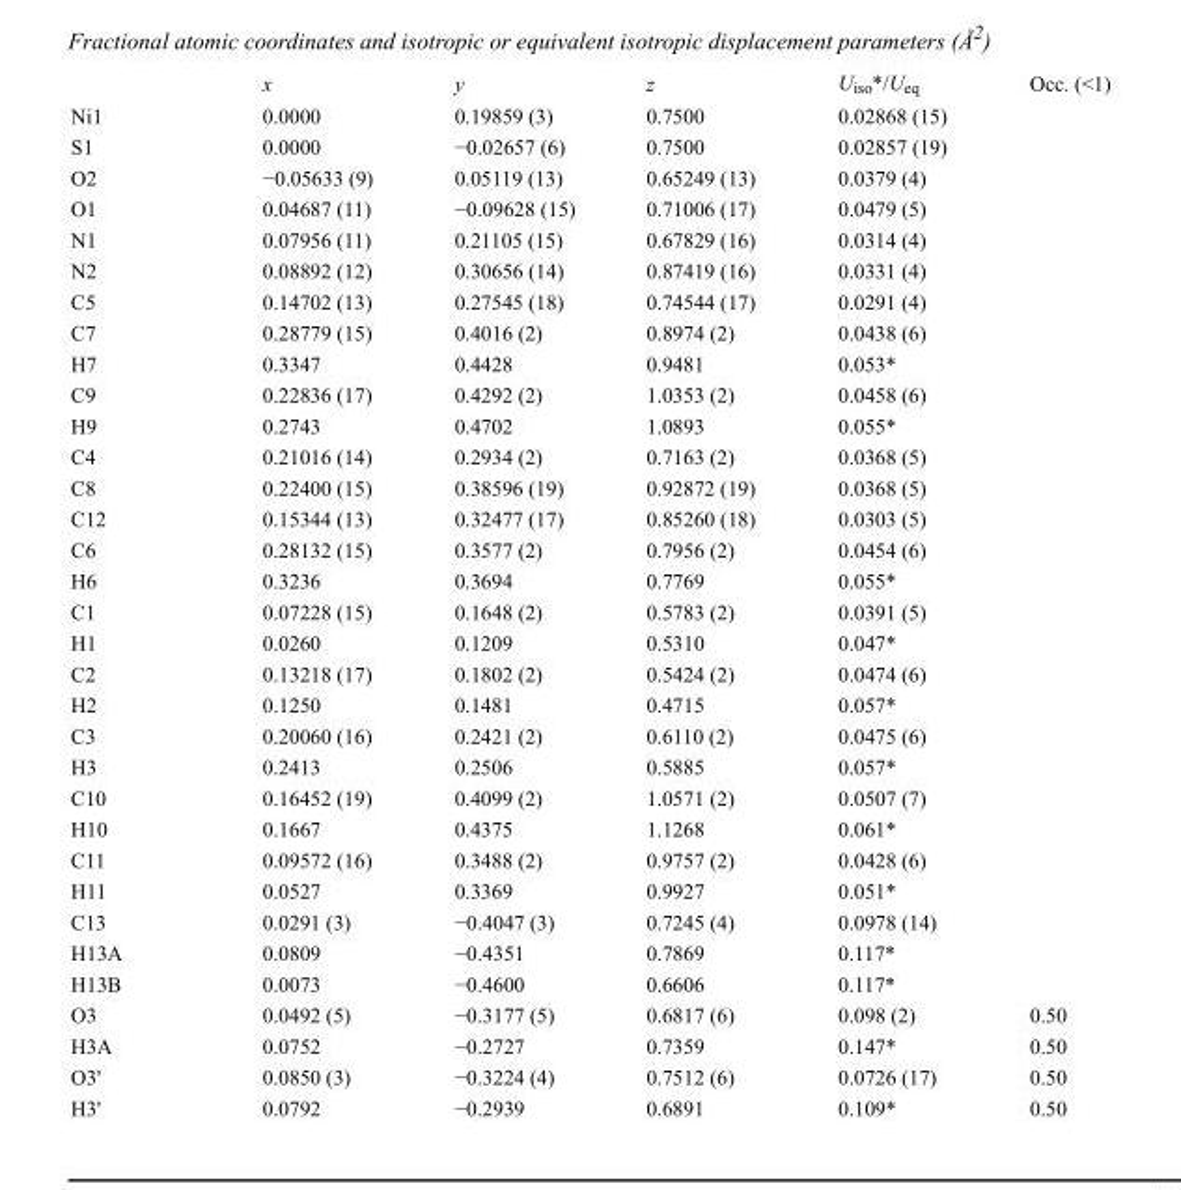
<table><thead><tr><td></td><td>x</td><td>y</td><td>z</td><td>U<sub>iso</sub>*/U<sub>eq</sub></td><td>Occ. (&lt;1)</td></tr></thead><tbody><tr><td>Ni1</td><td>0.0000</td><td>0.19859 (3)</td><td>0.7500</td><td>0.02868 (15)</td><td></td></tr><tr><td>S1</td><td>0.0000</td><td>−0.02657 (6)</td><td>0.7500</td><td>0.02857 (19)</td><td></td></tr><tr><td>O2</td><td>−0.05633 (9)</td><td>0.05119 (13)</td><td>0.65249 (13)</td><td>0.0379 (4)</td><td></td></tr><tr><td>O1</td><td>0.04687 (11)</td><td>−0.09628 (15)</td><td>0.71006 (17)</td><td>0.0479 (5)</td><td></td></tr><tr><td>N1</td><td>0.07956 (11)</td><td>0.21105 (15)</td><td>0.67829 (16)</td><td>0.0314 (4)</td><td></td></tr><tr><td>N2</td><td>0.08892 (12)</td><td>0.30656 (14)</td><td>0.87419 (16)</td><td>0.0331 (4)</td><td></td></tr><tr><td>C5</td><td>0.14702 (13)</td><td>0.27545 (18)</td><td>0.74544 (17)</td><td>0.0291 (4)</td><td></td></tr><tr><td>C7</td><td>0.28779 (15)</td><td>0.4016 (2)</td><td>0.8974 (2)</td><td>0.0438 (6)</td><td></td></tr><tr><td>H7</td><td>0.3347</td><td>0.4428</td><td>0.9481</td><td>0.053*</td><td></td></tr><tr><td>C9</td><td>0.22836 (17)</td><td>0.4292 (2)</td><td>1.0353 (2)</td><td>0.0458 (6)</td><td></td></tr><tr><td>H9</td><td>0.2743</td><td>0.4702</td><td>1.0893</td><td>0.055*</td><td></td></tr><tr><td>C4</td><td>0.21016 (14)</td><td>0.2934 (2)</td><td>0.7163 (2)</td><td>0.0368 (5)</td><td></td></tr><tr><td>C8</td><td>0.22400 (15)</td><td>0.38596 (19)</td><td>0.92872 (19)</td><td>0.0368 (5)</td><td></td></tr><tr><td>C12</td><td>0.15344 (13)</td><td>0.32477 (17)</td><td>0.85260 (18)</td><td>0.0303 (5)</td><td></td></tr><tr><td>C6</td><td>0.28132 (15)</td><td>0.3577 (2)</td><td>0.7956 (2)</td><td>0.0454 (6)</td><td></td></tr><tr><td>H6</td><td>0.3236</td><td>0.3694</td><td>0.7769</td><td>0.055*</td><td></td></tr><tr><td>C1</td><td>0.07228 (15)</td><td>0.1648 (2)</td><td>0.5783 (2)</td><td>0.0391 (5)</td><td></td></tr><tr><td>H1</td><td>0.0260</td><td>0.1209</td><td>0.5310</td><td>0.047*</td><td></td></tr><tr><td>C2</td><td>0.13218 (17)</td><td>0.1802 (2)</td><td>0.5424 (2)</td><td>0.0474 (6)</td><td></td></tr><tr><td>H2</td><td>0.1250</td><td>0.1481</td><td>0.4715</td><td>0.057*</td><td></td></tr><tr><td>C3</td><td>0.20060 (16)</td><td>0.2421 (2)</td><td>0.6110 (2)</td><td>0.0475 (6)</td><td></td></tr><tr><td>H3</td><td>0.2413</td><td>0.2506</td><td>0.5885</td><td>0.057*</td><td></td></tr><tr><td>C10</td><td>0.16452 (19)</td><td>0.4099 (2)</td><td>1.0571 (2)</td><td>0.0507 (7)</td><td></td></tr><tr><td>H10</td><td>0.1667</td><td>0.4375</td><td>1.1268</td><td>0.061*</td><td></td></tr><tr><td>C11</td><td>0.09572 (16)</td><td>0.3488 (2)</td><td>0.9757 (2)</td><td>0.0428 (6)</td><td></td></tr><tr><td>H11</td><td>0.0527</td><td>0.3369</td><td>0.9927</td><td>0.051*</td><td></td></tr><tr><td>C13</td><td>0.0291 (3)</td><td>−0.4047 (3)</td><td>0.7245 (4)</td><td>0.0978 (14)</td><td></td></tr><tr><td>H13A</td><td>0.0809</td><td>−0.4351</td><td>0.7869</td><td>0.117*</td><td></td></tr><tr><td>H13B</td><td>0.0073</td><td>−0.4600</td><td>0.6606</td><td>0.117*</td><td></td></tr><tr><td>O3</td><td>0.0492 (5)</td><td>−0.3177 (5)</td><td>0.6817 (6)</td><td>0.098 (2)</td><td>0.50</td></tr><tr><td>H3A</td><td>0.0752</td><td>−0.2727</td><td>0.7359</td><td>0.147*</td><td>0.50</td></tr><tr><td>O3&#x27;</td><td>0.0850 (3)</td><td>−0.3224 (4)</td><td>0.7512 (6)</td><td>0.0726 (17)</td><td>0.50</td></tr><tr><td>H3&#x27;</td><td>0.0792</td><td>−0.2939</td><td>0.6891</td><td>0.109*</td><td>0.50</td></tr></tbody></table>